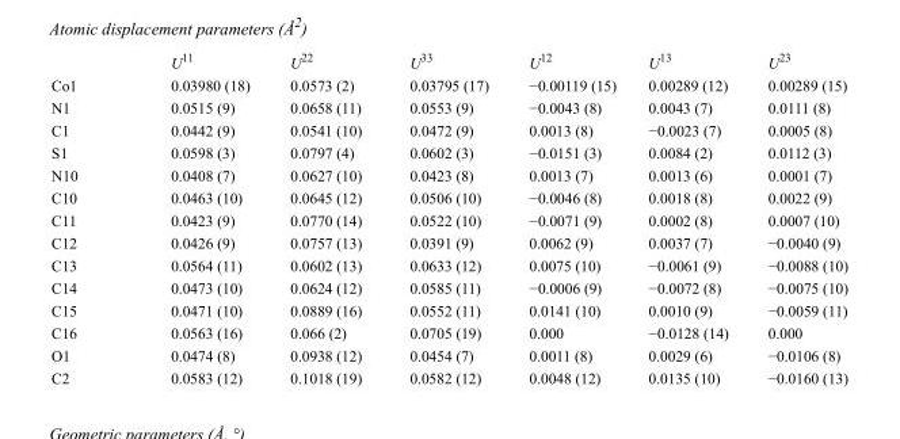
<table><thead><tr><td></td><td>U<sup>11</sup></td><td>U<sup>22</sup></td><td>U<sup>33</sup></td><td>U<sup>12</sup></td><td>U<sup>13</sup></td><td>U<sup>23</sup></td></tr></thead><tbody><tr><td>Co1</td><td>0.03980 (18)</td><td>0.0573 (2)</td><td>0.03795 (17)</td><td>−0.00119 (15)</td><td>0.00289 (12)</td><td>0.00289 (15)</td></tr><tr><td>N1</td><td>0.0515 (9)</td><td>0.0658 (11)</td><td>0.0553 (9)</td><td>−0.0043 (8)</td><td>0.0043 (7)</td><td>0.0111 (8)</td></tr><tr><td>C1</td><td>0.0442 (9)</td><td>0.0541 (10)</td><td>0.0472 (9)</td><td>0.0013 (8)</td><td>−0.0023 (7)</td><td>0.0005 (8)</td></tr><tr><td>S1</td><td>0.0598 (3)</td><td>0.0797 (4)</td><td>0.0602 (3)</td><td>−0.0151 (3)</td><td>0.0084 (2)</td><td>0.0112 (3)</td></tr><tr><td>N10</td><td>0.0408 (7)</td><td>0.0627 (10)</td><td>0.0423 (8)</td><td>0.0013 (7)</td><td>0.0013 (6)</td><td>0.0001 (7)</td></tr><tr><td>C10</td><td>0.0463 (10)</td><td>0.0645 (12)</td><td>0.0506 (10)</td><td>−0.0046 (8)</td><td>0.0018 (8)</td><td>0.0022 (9)</td></tr><tr><td>C11</td><td>0.0423 (9)</td><td>0.0770 (14)</td><td>0.0522 (10)</td><td>−0.0071 (9)</td><td>0.0002 (8)</td><td>0.0007 (10)</td></tr><tr><td>C12</td><td>0.0426 (9)</td><td>0.0757 (13)</td><td>0.0391 (9)</td><td>0.0062 (9)</td><td>0.0037 (7)</td><td>−0.0040 (9)</td></tr><tr><td>C13</td><td>0.0564 (11)</td><td>0.0602 (13)</td><td>0.0633 (12)</td><td>0.0075 (10)</td><td>−0.0061 (9)</td><td>−0.0088 (10)</td></tr><tr><td>C14</td><td>0.0473 (10)</td><td>0.0624 (12)</td><td>0.0585 (11)</td><td>−0.0006 (9)</td><td>−0.0072 (8)</td><td>−0.0075 (10)</td></tr><tr><td>C15</td><td>0.0471 (10)</td><td>0.0889 (16)</td><td>0.0552 (11)</td><td>0.0141 (10)</td><td>0.0010 (9)</td><td>−0.0059 (11)</td></tr><tr><td>C16</td><td>0.0563 (16)</td><td>0.066 (2)</td><td>0.0705 (19)</td><td>0.000</td><td>−0.0128 (14)</td><td>0.000</td></tr><tr><td>O1</td><td>0.0474 (8)</td><td>0.0938 (12)</td><td>0.0454 (7)</td><td>0.0011 (8)</td><td>0.0029 (6)</td><td>−0.0106 (8)</td></tr><tr><td>C2</td><td>0.0583 (12)</td><td>0.1018 (19)</td><td>0.0582 (12)</td><td>0.0048 (12)</td><td>0.0135 (10)</td><td>−0.0160 (13)</td></tr></tbody></table>